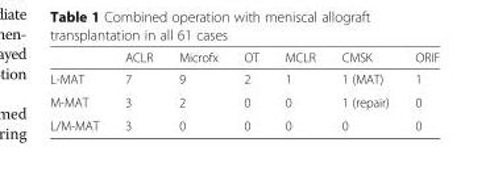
<table><thead><tr><td></td><td>ACLR</td><td>Microfx</td><td>OT</td><td>MCLR</td><td>CMSK</td><td>ORIF</td></tr></thead><tbody><tr><td>L-MAT</td><td>7</td><td>9</td><td>2</td><td>1</td><td>1 (MAT)</td><td>1</td></tr><tr><td>M-MAT</td><td>3</td><td>2</td><td>0</td><td>0</td><td>1 (repair)</td><td>0</td></tr><tr><td>L/M-MAT</td><td>3</td><td>0</td><td>0</td><td>0</td><td>0</td><td>0</td></tr></tbody></table>